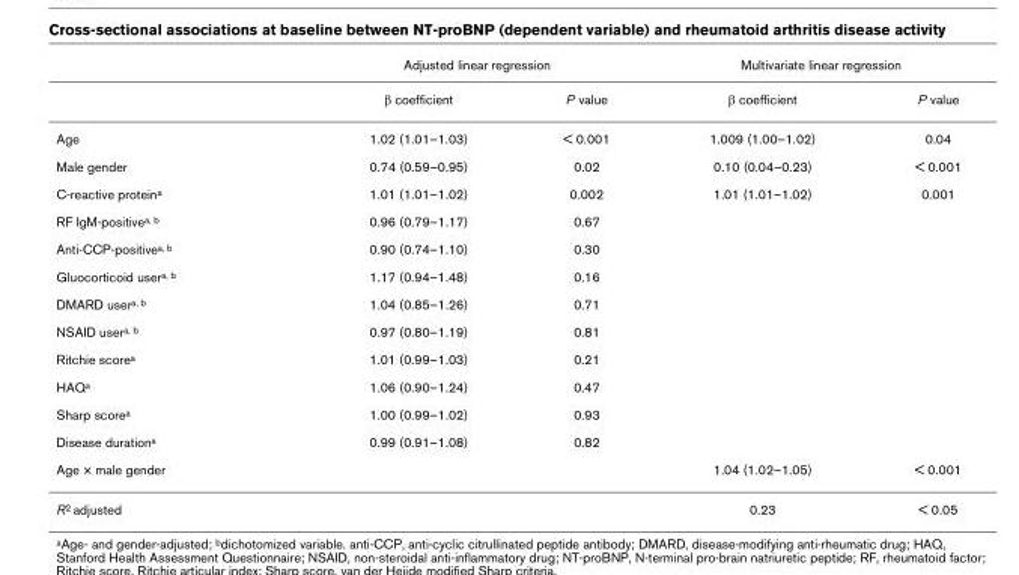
<table><thead><tr><td rowspan="2"></td><td colspan="2">Adjusted linear regression</td><td colspan="2">Multivariate linear regression</td></tr><tr><td>β coefficient</td><td>P value</td><td>β coefficient</td><td>P value</td></tr></thead><tbody><tr><td>Age</td><td>1.02 (1.01–1.03)</td><td>&lt; 0.001</td><td>1.009 (1.00–1.02)</td><td>0.04</td></tr><tr><td>Male gender</td><td>0.74 (0.59–0.95)</td><td>0.02</td><td>0.10 (0.04–0.23)</td><td>&lt; 0.001</td></tr><tr><td>C-reactive protein<sup>a</sup></td><td>1.01 (1.01–1.02)</td><td>0.002</td><td>1.01 (1.01–1.02)</td><td>0.001</td></tr><tr><td>RF IgM-positive<sup>a, b</sup></td><td>0.96 (0.79–1.17)</td><td>0.67</td><td></td><td></td></tr><tr><td>Anti-CCP-positive<sup>a, b</sup></td><td>0.90 (0.74–1.10)</td><td>0.30</td><td></td><td></td></tr><tr><td>Gluocorticoid user<sup>a, b</sup></td><td>1.17 (0.94–1.48)</td><td>0.16</td><td></td><td></td></tr><tr><td>DMARD user<sup>a, b</sup></td><td>1.04 (0.85–1.26)</td><td>0.71</td><td></td><td></td></tr><tr><td>NSAID user<sup>a, b</sup></td><td>0.97 (0.80–1.19)</td><td>0.81</td><td></td><td></td></tr><tr><td>Ritchie score<sup>a</sup></td><td>1.01 (0.99–1.03)</td><td>0.21</td><td></td><td></td></tr><tr><td>HAQ<sup>a</sup></td><td>1.06 (0.90–1.24)</td><td>0.47</td><td></td><td></td></tr><tr><td>Sharp score<sup>a</sup></td><td>1.00 (0.99–1.02)</td><td>0.93</td><td></td><td></td></tr><tr><td>Disease duration<sup>a</sup></td><td>0.99 (0.91–1.08)</td><td>0.82</td><td></td><td></td></tr><tr><td>Age × male gender</td><td></td><td></td><td>1.04 (1.02–1.05)</td><td>&lt; 0.001</td></tr><tr><td>R<sup>2</sup> adjusted</td><td></td><td></td><td>0.23</td><td>&lt; 0.05</td></tr></tbody></table>